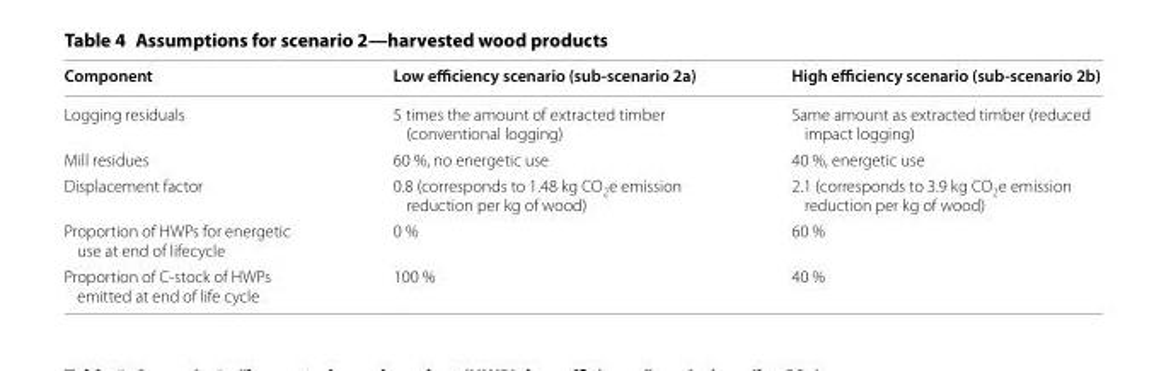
<table><thead><tr><td>Component</td><td>Low efficiency scenario (sub-scenario 2a)</td><td>High efficiency scenario (sub-scenario 2b)</td></tr></thead><tbody><tr><td>Logging residuals</td><td>5 times the amount of extracted timber (conventional logging)</td><td>Same amount as extracted timber (reduced impact logging)</td></tr><tr><td>Mill residues</td><td>60 %, no energetic use</td><td>40 %, energetic use</td></tr><tr><td>Displacement factor</td><td>0.8 (corresponds to 1.48 kg CO<sub>2</sub>e emission reduction per kg of wood)</td><td>2.1 (corresponds to 3.9 kg CO<sub>2</sub>e emission reduction per kg of wood)</td></tr><tr><td>Proportion of HWPs for energetic use at end of lifecycle</td><td>0 %</td><td>60 %</td></tr><tr><td>Proportion of C‑stock of HWPs emitted at end of life cycle</td><td>100 %</td><td>40 %</td></tr></tbody></table>